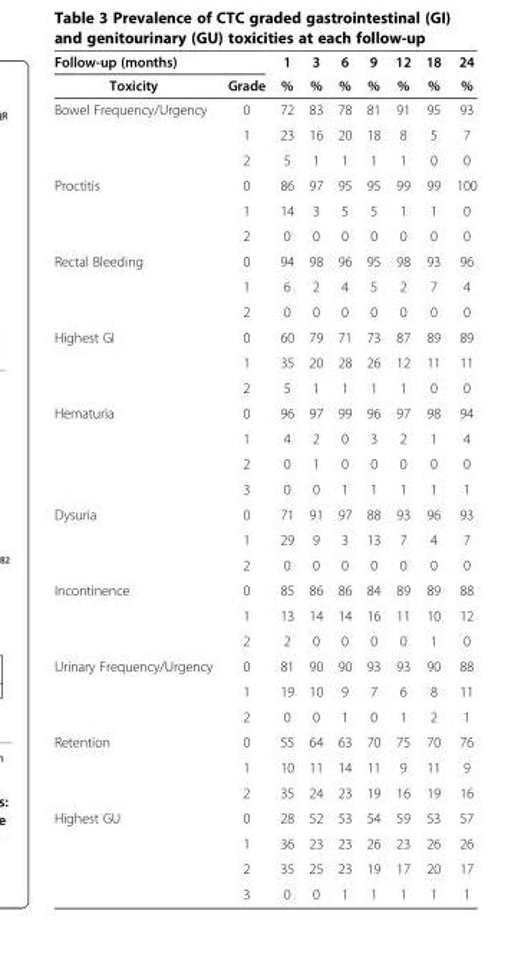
<table><thead><tr><td colspan="2">Follow-up (months)</td><td rowspan="2">1 %</td><td rowspan="2">3 %</td><td rowspan="2">6 %</td><td rowspan="2">9 %</td><td rowspan="2">12 %</td><td rowspan="2">18 %</td><td rowspan="2">24 %</td></tr><tr><td>Toxicity</td><td>Grade</td></tr></thead><tbody><tr><td rowspan="3">Bowel Frequency/Urgency</td><td>0</td><td>72</td><td>83</td><td>78</td><td>81</td><td>91</td><td>95</td><td>93</td></tr><tr><td>1</td><td>23</td><td>16</td><td>20</td><td>18</td><td>8</td><td>5</td><td>7</td></tr><tr><td>2</td><td>5</td><td>1</td><td>1</td><td>1</td><td>1</td><td>0</td><td>0</td></tr><tr><td rowspan="3">Proctitis</td><td>0</td><td>86</td><td>97</td><td>95</td><td>95</td><td>99</td><td>99</td><td>100</td></tr><tr><td>1</td><td>14</td><td>3</td><td>5</td><td>5</td><td>1</td><td>1</td><td>0</td></tr><tr><td>2</td><td>0</td><td>0</td><td>0</td><td>0</td><td>0</td><td>0</td><td>0</td></tr><tr><td rowspan="3">Rectal Bleeding</td><td>0</td><td>94</td><td>98</td><td>96</td><td>95</td><td>98</td><td>93</td><td>96</td></tr><tr><td>1</td><td>6</td><td>2</td><td>4</td><td>5</td><td>2</td><td>7</td><td>4</td></tr><tr><td>2</td><td>0</td><td>0</td><td>0</td><td>0</td><td>0</td><td>0</td><td>0</td></tr><tr><td rowspan="3">Highest GI</td><td>0</td><td>60</td><td>79</td><td>71</td><td>73</td><td>87</td><td>89</td><td>89</td></tr><tr><td>1</td><td>35</td><td>20</td><td>28</td><td>26</td><td>12</td><td>11</td><td>11</td></tr><tr><td>2</td><td>5</td><td>1</td><td>1</td><td>1</td><td>1</td><td>0</td><td>0</td></tr><tr><td rowspan="4">Hematuria</td><td>0</td><td>96</td><td>97</td><td>99</td><td>96</td><td>97</td><td>98</td><td>94</td></tr><tr><td>1</td><td>4</td><td>2</td><td>0</td><td>3</td><td>2</td><td>1</td><td>4</td></tr><tr><td>2</td><td>0</td><td>1</td><td>0</td><td>0</td><td>0</td><td>0</td><td>0</td></tr><tr><td>3</td><td>0</td><td>0</td><td>1</td><td>1</td><td>1</td><td>1</td><td>1</td></tr><tr><td rowspan="3">Dysuria</td><td>0</td><td>71</td><td>91</td><td>97</td><td>88</td><td>93</td><td>96</td><td>93</td></tr><tr><td>1</td><td>29</td><td>9</td><td>3</td><td>13</td><td>7</td><td>4</td><td>7</td></tr><tr><td>2</td><td>0</td><td>0</td><td>0</td><td>0</td><td>0</td><td>0</td><td>0</td></tr><tr><td rowspan="3">Incontinence</td><td>0</td><td>85</td><td>86</td><td>86</td><td>84</td><td>89</td><td>89</td><td>88</td></tr><tr><td>1</td><td>13</td><td>14</td><td>14</td><td>16</td><td>11</td><td>10</td><td>12</td></tr><tr><td>2</td><td>2</td><td>0</td><td>0</td><td>0</td><td>0</td><td>1</td><td>0</td></tr><tr><td rowspan="3">Urinary Frequency/Urgency</td><td>0</td><td>81</td><td>90</td><td>90</td><td>93</td><td>93</td><td>90</td><td>88</td></tr><tr><td>1</td><td>19</td><td>10</td><td>9</td><td>7</td><td>6</td><td>8</td><td>11</td></tr><tr><td>2</td><td>0</td><td>0</td><td>1</td><td>0</td><td>1</td><td>2</td><td>1</td></tr><tr><td rowspan="3">Retention</td><td>0</td><td>55</td><td>64</td><td>63</td><td>70</td><td>75</td><td>70</td><td>76</td></tr><tr><td>1</td><td>10</td><td>11</td><td>14</td><td>11</td><td>9</td><td>11</td><td>9</td></tr><tr><td>2</td><td>35</td><td>24</td><td>23</td><td>19</td><td>16</td><td>19</td><td>16</td></tr><tr><td rowspan="4">Highest GU</td><td>0</td><td>28</td><td>52</td><td>53</td><td>54</td><td>59</td><td>53</td><td>57</td></tr><tr><td>1</td><td>36</td><td>23</td><td>23</td><td>26</td><td>23</td><td>26</td><td>26</td></tr><tr><td>2</td><td>35</td><td>25</td><td>23</td><td>19</td><td>17</td><td>20</td><td>17</td></tr><tr><td>3</td><td>0</td><td>0</td><td>1</td><td>1</td><td>1</td><td>1</td><td>1</td></tr></tbody></table>